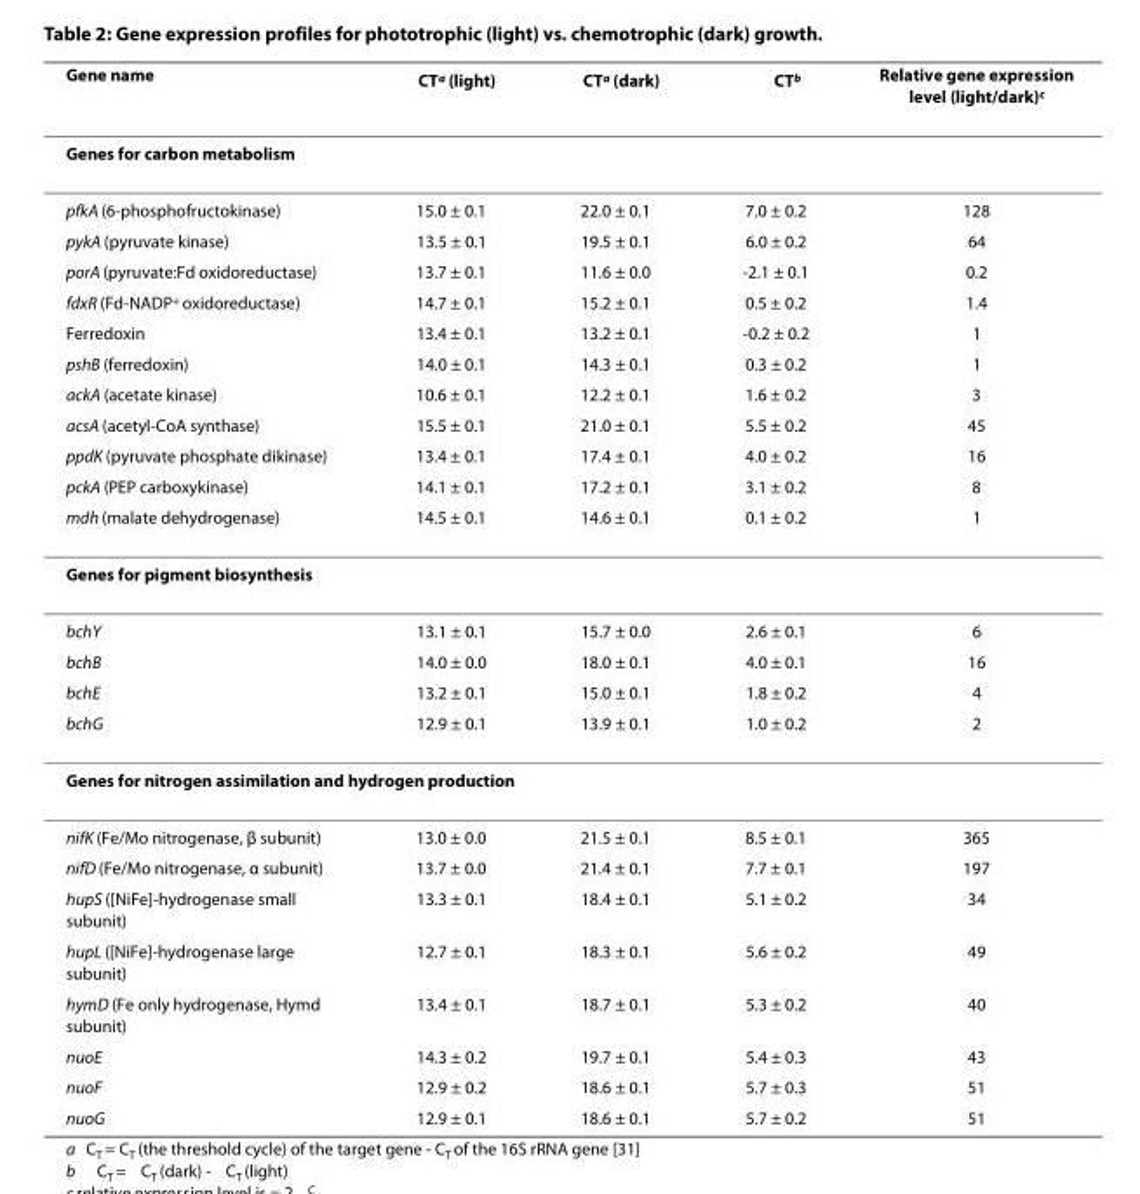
<table><thead><tr><td>Gene name</td><td>CTa (light)</td><td>CTa (dark)</td><td>CTb</td><td>Relative gene expression level (light/dark)c</td></tr></thead><tbody><tr><td colspan="5">Genes for carbon metabolism</td></tr><tr><td>pfkA (6-phosphofructokinase)</td><td>15.0 ± 0.1</td><td>22.0 ± 0.1</td><td>7.0 ± 0.2</td><td>128</td></tr><tr><td>pykA (pyruvate kinase)</td><td>13.5 ± 0.1</td><td>19.5 ± 0.1</td><td>6.0 ± 0.2</td><td>64</td></tr><tr><td>porA (pyruvate:Fd oxidoreductase)</td><td>13.7 ± 0.1</td><td>11.6 ± 0.0</td><td>-2.1 ± 0.1</td><td>0.2</td></tr><tr><td>fdxR (Fd-NADP<sup>+</sup> oxidoreductase)</td><td>14.7 ± 0.1</td><td>15.2 ± 0.1</td><td>0.5 ± 0.2</td><td>1.4</td></tr><tr><td>Ferredoxin</td><td>13.4 ± 0.1</td><td>13.2 ± 0.1</td><td>-0.2 ± 0.2</td><td>1</td></tr><tr><td>pshB (ferredoxin)</td><td>14.0 ± 0.1</td><td>14.3 ± 0.1</td><td>0.3 ± 0.2</td><td>1</td></tr><tr><td>ackA (acetate kinase)</td><td>10.6 ± 0.1</td><td>12.2 ± 0.1</td><td>1.6 ± 0.2</td><td>3</td></tr><tr><td>acsA (acetyl-CoA synthase)</td><td>15.5 ± 0.1</td><td>21.0 ± 0.1</td><td>5.5 ± 0.2</td><td>45</td></tr><tr><td>ppdK (pyruvate phosphate dikinase)</td><td>13.4 ± 0.1</td><td>17.4 ± 0.1</td><td>4.0 ± 0.2</td><td>16</td></tr><tr><td>pckA (PEP carboxykinase)</td><td>14.1 ± 0.1</td><td>17.2 ± 0.1</td><td>3.1 ± 0.2</td><td>8</td></tr><tr><td>mdh (malate dehydrogenase)</td><td>14.5 ± 0.1</td><td>14.6 ± 0.1</td><td>0.1 ± 0.2</td><td>1</td></tr><tr><td colspan="5">Genes for pigment biosynthesis</td></tr><tr><td>bchY</td><td>13.1 ± 0.1</td><td>15.7 ± 0.0</td><td>2.6 ± 0.1</td><td>6</td></tr><tr><td>bchB</td><td>14.0 ± 0.0</td><td>18.0 ± 0.1</td><td>4.0 ± 0.1</td><td>16</td></tr><tr><td>bchE</td><td>13.2 ± 0.1</td><td>15.0 ± 0.1</td><td>1.8 ± 0.2</td><td>4</td></tr><tr><td>bchG</td><td>12.9 ± 0.1</td><td>13.9 ± 0.1</td><td>1.0 ± 0.2</td><td>2</td></tr><tr><td colspan="5">Genes for nitrogen assimilation and hydrogen production</td></tr><tr><td>nifK (Fe/Mo nitrogenase, β subunit)</td><td>13.0 ± 0.0</td><td>21.5 ± 0.1</td><td>8.5 ± 0.1</td><td>365</td></tr><tr><td>nifD (Fe/Mo nitrogenase, α subunit)</td><td>13.7 ± 0.0</td><td>21.4 ± 0.1</td><td>7.7 ± 0.1</td><td>197</td></tr><tr><td>hupS ([NiFe]-hydrogenase small subunit)</td><td>13.3 ± 0.1</td><td>18.4 ± 0.1</td><td>5.1 ± 0.2</td><td>34</td></tr><tr><td>hupL ([NiFe]-hydrogenase large subunit)</td><td>12.7 ± 0.1</td><td>18.3 ± 0.1</td><td>5.6 ± 0.2</td><td>49</td></tr><tr><td>hymD (Fe only hydrogenase, Hymd subunit)</td><td>13.4 ± 0.1</td><td>18.7 ± 0.1</td><td>5.3 ± 0.2</td><td>40</td></tr><tr><td>nuoE</td><td>14.3 ± 0.2</td><td>19.7 ± 0.1</td><td>5.4 ± 0.3</td><td>43</td></tr><tr><td>nuoF</td><td>12.9 ± 0.2</td><td>18.6 ± 0.1</td><td>5.7 ± 0.3</td><td>51</td></tr><tr><td>nuoG</td><td>12.9 ± 0.1</td><td>18.6 ± 0.1</td><td>5.7 ± 0.2</td><td>51</td></tr></tbody></table>